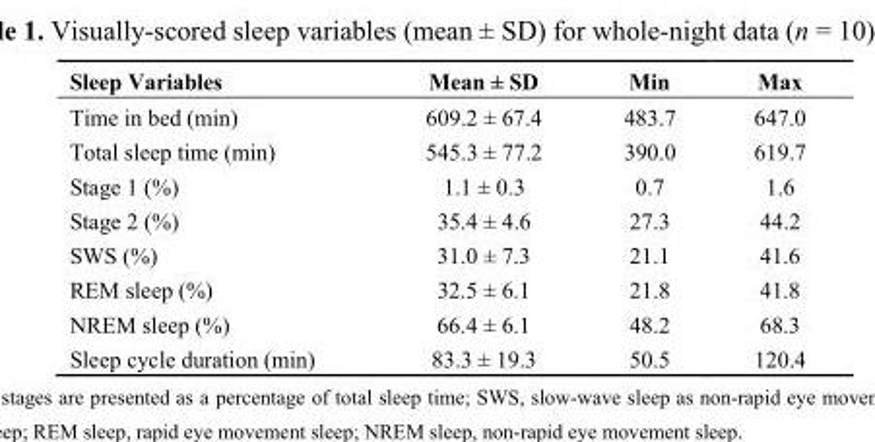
<table><thead><tr><td>Sleep Variables</td><td>Mean ± SD</td><td>Min</td><td>Max</td></tr></thead><tbody><tr><td>Time in bed (min)</td><td>609.2 ± 67.4</td><td>483.7</td><td>647.0</td></tr><tr><td>Total sleep time (min)</td><td>545.3 ± 77.2</td><td>390.0</td><td>619.7</td></tr><tr><td>Stage 1 (%)</td><td>1.1 ± 0.3</td><td>0.7</td><td>1.6</td></tr><tr><td>Stage 2 (%)</td><td>35.4 ± 4.6</td><td>27.3</td><td>44.2</td></tr><tr><td>SWS (%)</td><td>31.0 ± 7.3</td><td>21.1</td><td>41.6</td></tr><tr><td>REM sleep (%)</td><td>32.5 ± 6.1</td><td>21.8</td><td>41.8</td></tr><tr><td>NREM sleep (%)</td><td>66.4 ± 6.1</td><td>48.2</td><td>68.3</td></tr><tr><td>Sleep cycle duration (min)</td><td>83.3 ± 19.3</td><td>50.5</td><td>120.4</td></tr></tbody></table>